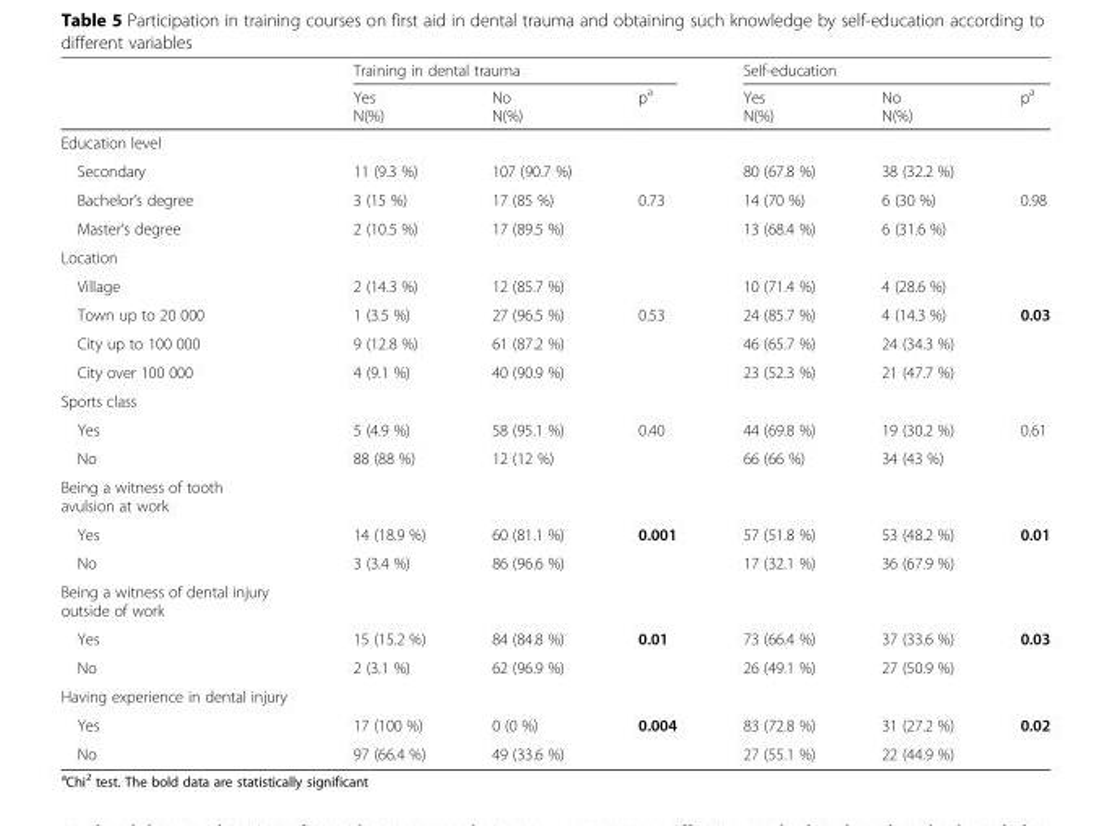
<table><thead><tr><td rowspan="2"></td><td colspan="3">Training in dental trauma</td><td colspan="3">Self-education</td></tr><tr><td>Yes N(%)</td><td>No N(%)</td><td>p<sup>a</sup></td><td>Yes N(%)</td><td>No N(%)</td><td>p<sup>a</sup></td></tr></thead><tbody><tr><td colspan="7">Education level</td></tr><tr><td>Secondary</td><td>11 (9.3 %)</td><td>107 (90.7 %)</td><td></td><td>80 (67.8 %)</td><td>38 (32.2 %)</td><td></td></tr><tr><td>Bachelor’s degree</td><td>3 (15 %)</td><td>17 (85 %)</td><td>0.73</td><td>14 (70 %)</td><td>6 (30 %)</td><td>0.98</td></tr><tr><td>Master’s degree</td><td>2 (10.5 %)</td><td>17 (89.5 %)</td><td></td><td>13 (68.4 %)</td><td>6 (31.6 %)</td><td></td></tr><tr><td colspan="7">Location</td></tr><tr><td>Village</td><td>2 (14.3 %)</td><td>12 (85.7 %)</td><td></td><td>10 (71.4 %)</td><td>4 (28.6 %)</td><td></td></tr><tr><td>Town up to 20 000</td><td>1 (3.5 %)</td><td>27 (96.5 %)</td><td>0.53</td><td>24 (85.7 %)</td><td>4 (14.3 %)</td><td>0.03</td></tr><tr><td>City up to 100 000</td><td>9 (12.8 %)</td><td>61 (87.2 %)</td><td></td><td>46 (65.7 %)</td><td>24 (34.3 %)</td><td></td></tr><tr><td>City over 100 000</td><td>4 (9.1 %)</td><td>40 (90.9 %)</td><td></td><td>23 (52.3 %)</td><td>21 (47.7 %)</td><td></td></tr><tr><td colspan="7">Sports class</td></tr><tr><td>Yes</td><td>5 (4.9 %)</td><td>58 (95.1 %)</td><td>0.40</td><td>44 (69.8 %)</td><td>19 (30.2 %)</td><td>0.61</td></tr><tr><td>No</td><td>88 (88 %)</td><td>12 (12 %)</td><td></td><td>66 (66 %)</td><td>34 (43 %)</td><td></td></tr><tr><td colspan="7">Being a witness of tooth avulsion at work</td></tr><tr><td>Yes</td><td>14 (18.9 %)</td><td>60 (81.1 %)</td><td>0.001</td><td>57 (51.8 %)</td><td>53 (48.2 %)</td><td>0.01</td></tr><tr><td>No</td><td>3 (3.4 %)</td><td>86 (96.6 %)</td><td></td><td>17 (32.1 %)</td><td>36 (67.9 %)</td><td></td></tr><tr><td colspan="7">Being a witness of dental injury outside of work</td></tr><tr><td>Yes</td><td>15 (15.2 %)</td><td>84 (84.8 %)</td><td>0.01</td><td>73 (66.4 %)</td><td>37 (33.6 %)</td><td>0.03</td></tr><tr><td>No</td><td>2 (3.1 %)</td><td>62 (96.9 %)</td><td></td><td>26 (49.1 %)</td><td>27 (50.9 %)</td><td></td></tr><tr><td colspan="7">Having experience in dental injury</td></tr><tr><td>Yes</td><td>17 (100 %)</td><td>0 (0 %)</td><td>0.004</td><td>83 (72.8 %)</td><td>31 (27.2 %)</td><td>0.02</td></tr><tr><td>No</td><td>97 (66.4 %)</td><td>49 (33.6 %)</td><td></td><td>27 (55.1 %)</td><td>22 (44.9 %)</td><td></td></tr></tbody></table>